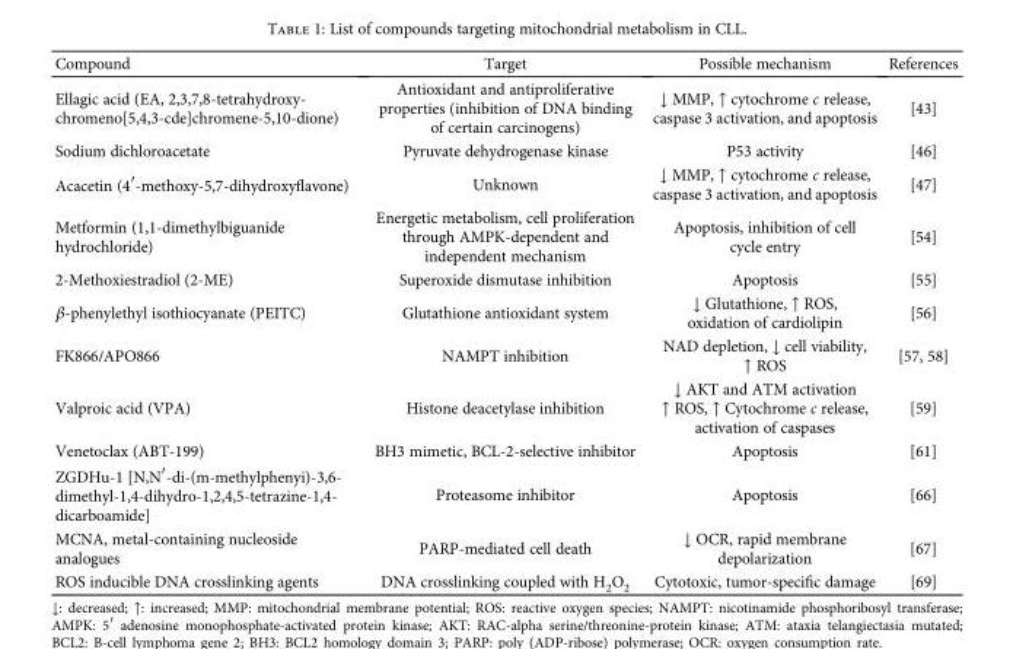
<table><thead><tr><td>Compound</td><td>Target</td><td>Possible mechanism</td><td>References</td></tr></thead><tbody><tr><td>Ellagic acid (EA, 2,3,7,8-tetrahydroxy- chromeno[5,4,3-cde]chromene-5,10-dione)</td><td>Antioxidant and antiproliferative properties (inhibition of DNA binding of certain carcinogens)</td><td>↓ MMP, ↑ cytochrome c release, caspase 3 activation, and apoptosis</td><td>[43]</td></tr><tr><td>Sodium dichloroacetate</td><td>Pyruvate dehydrogenase kinase</td><td>P53 activity</td><td>[46]</td></tr><tr><td>Acacetin (4′-methoxy-5,7-dihydroxyflavone)</td><td>Unknown</td><td>↓ MMP, ↑ cytochrome c release, caspase 3 activation, and apoptosis</td><td>[47]</td></tr><tr><td>Metformin (1,1-dimethylbiguanide hydrochloride)</td><td>Energetic metabolism, cell proliferation through AMPK-dependent and independent mechanism</td><td>Apoptosis, inhibition of cell cycle entry</td><td>[54]</td></tr><tr><td>2-Methoxiestradiol (2-ME)</td><td>Superoxide dismutase inhibition</td><td>Apoptosis</td><td>[55]</td></tr><tr><td>β-phenylethyl isothiocyanate (PEITC)</td><td>Glutathione antioxidant system</td><td>↓ Glutathione, ↑ ROS, oxidation of cardiolipin</td><td>[56]</td></tr><tr><td>FK866/APO866</td><td>NAMPT inhibition</td><td>NAD depletion, ↓ cell viability, ↑ ROS</td><td>[57, 58]</td></tr><tr><td>Valproic acid (VPA)</td><td>Histone deacetylase inhibition</td><td>↓ AKT and ATM activation ↑ ROS, ↑ Cytochrome c release, activation of caspases</td><td>[59]</td></tr><tr><td>Venetoclax (ABT-199)</td><td>BH3 mimetic, BCL-2-selective inhibitor</td><td>Apoptosis</td><td>[61]</td></tr><tr><td>ZGDHu-1 [N,N′-di-(m-methylphenyi)-3,6- dimethyl-1,4-dihydro-1,2,4,5-tetrazine-1,4- dicarboamide]</td><td>Proteasome inhibitor</td><td>Apoptosis</td><td>[66]</td></tr><tr><td>MCNA, metal-containing nucleoside analogues</td><td>PARP-mediated cell death</td><td>↓ OCR, rapid membrane depolarization</td><td>[67]</td></tr><tr><td>ROS inducible DNA crosslinking agents</td><td>DNA crosslinking coupled with H<sub>2</sub>O<sub>2</sub></td><td>Cytotoxic, tumor-specific damage</td><td>[69]</td></tr></tbody></table>